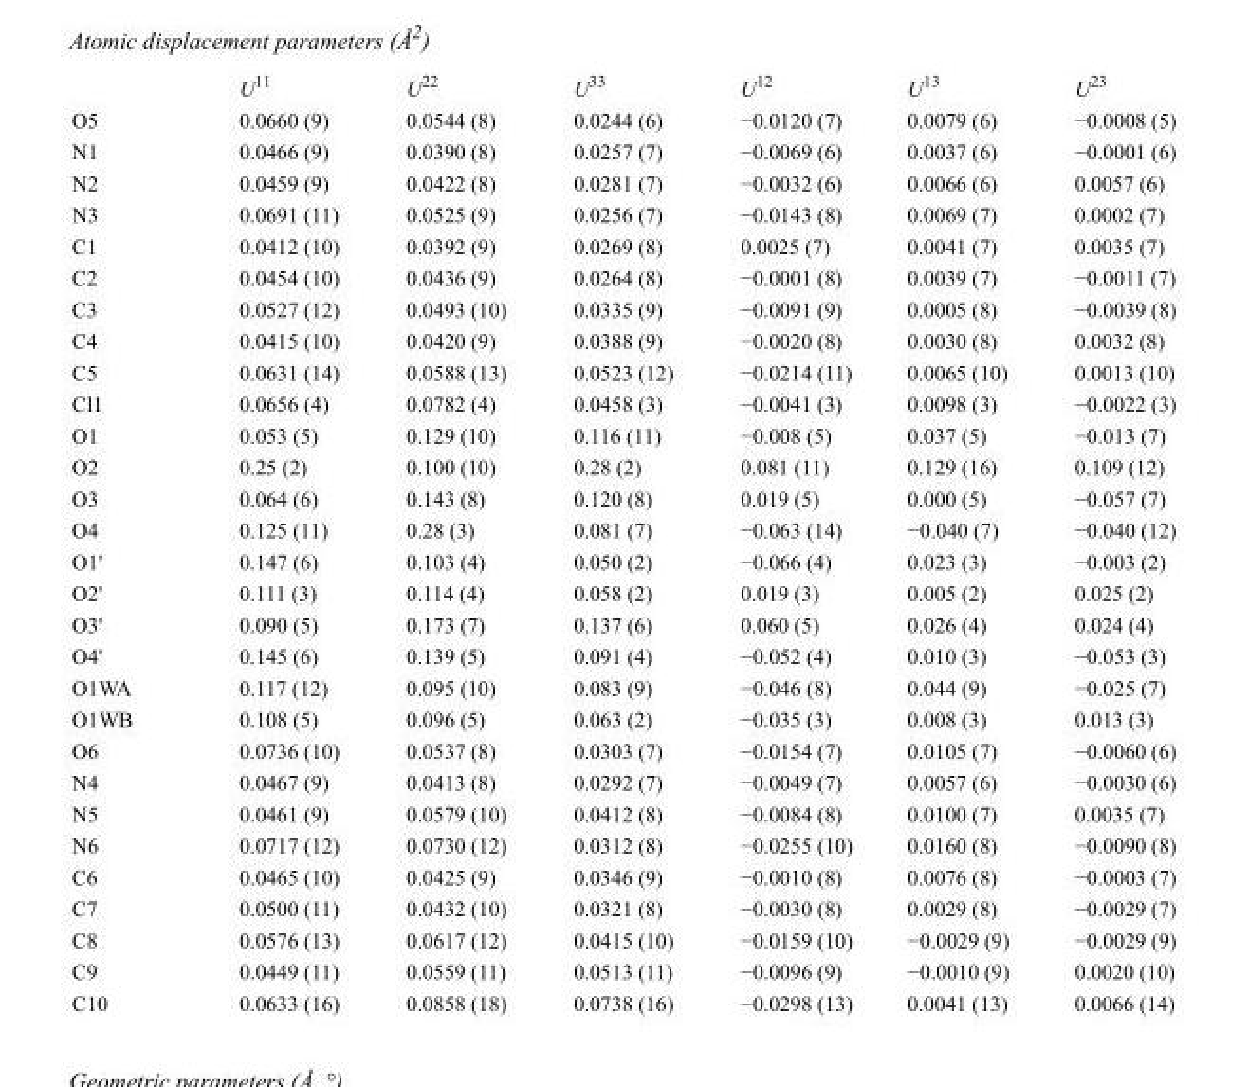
<table><thead><tr><td></td><td>U<sup>11</sup></td><td>U<sup>22</sup></td><td>U<sup>33</sup></td><td>U<sup>12</sup></td><td>U<sup>13</sup></td><td>U<sup>23</sup></td></tr></thead><tbody><tr><td>O5</td><td>0.0660 (9)</td><td>0.0544 (8)</td><td>0.0244 (6)</td><td>−0.0120 (7)</td><td>0.0079 (6)</td><td>−0.0008 (5)</td></tr><tr><td>N1</td><td>0.0466 (9)</td><td>0.0390 (8)</td><td>0.0257 (7)</td><td>−0.0069 (6)</td><td>0.0037 (6)</td><td>−0.0001 (6)</td></tr><tr><td>N2</td><td>0.0459 (9)</td><td>0.0422 (8)</td><td>0.0281 (7)</td><td>−0.0032 (6)</td><td>0.0066 (6)</td><td>0.0057 (6)</td></tr><tr><td>N3</td><td>0.0691 (11)</td><td>0.0525 (9)</td><td>0.0256 (7)</td><td>−0.0143 (8)</td><td>0.0069 (7)</td><td>0.0002 (7)</td></tr><tr><td>C1</td><td>0.0412 (10)</td><td>0.0392 (9)</td><td>0.0269 (8)</td><td>0.0025 (7)</td><td>0.0041 (7)</td><td>0.0035 (7)</td></tr><tr><td>C2</td><td>0.0454 (10)</td><td>0.0436 (9)</td><td>0.0264 (8)</td><td>−0.0001 (8)</td><td>0.0039 (7)</td><td>−0.0011 (7)</td></tr><tr><td>C3</td><td>0.0527 (12)</td><td>0.0493 (10)</td><td>0.0335 (9)</td><td>−0.0091 (9)</td><td>0.0005 (8)</td><td>−0.0039 (8)</td></tr><tr><td>C4</td><td>0.0415 (10)</td><td>0.0420 (9)</td><td>0.0388 (9)</td><td>−0.0020 (8)</td><td>0.0030 (8)</td><td>0.0032 (8)</td></tr><tr><td>C5</td><td>0.0631 (14)</td><td>0.0588 (13)</td><td>0.0523 (12)</td><td>−0.0214 (11)</td><td>0.0065 (10)</td><td>0.0013 (10)</td></tr><tr><td>Cl1</td><td>0.0656 (4)</td><td>0.0782 (4)</td><td>0.0458 (3)</td><td>−0.0041 (3)</td><td>0.0098 (3)</td><td>−0.0022 (3)</td></tr><tr><td>O1</td><td>0.053 (5)</td><td>0.129 (10)</td><td>0.116 (11)</td><td>−0.008 (5)</td><td>0.037 (5)</td><td>−0.013 (7)</td></tr><tr><td>O2</td><td>0.25 (2)</td><td>0.100 (10)</td><td>0.28 (2)</td><td>0.081 (11)</td><td>0.129 (16)</td><td>0.109 (12)</td></tr><tr><td>O3</td><td>0.064 (6)</td><td>0.143 (8)</td><td>0.120 (8)</td><td>0.019 (5)</td><td>0.000 (5)</td><td>−0.057 (7)</td></tr><tr><td>O4</td><td>0.125 (11)</td><td>0.28 (3)</td><td>0.081 (7)</td><td>−0.063 (14)</td><td>−0.040 (7)</td><td>−0.040 (12)</td></tr><tr><td>O1&#x27;</td><td>0.147 (6)</td><td>0.103 (4)</td><td>0.050 (2)</td><td>−0.066 (4)</td><td>0.023 (3)</td><td>−0.003 (2)</td></tr><tr><td>O2&#x27;</td><td>0.111 (3)</td><td>0.114 (4)</td><td>0.058 (2)</td><td>0.019 (3)</td><td>0.005 (2)</td><td>0.025 (2)</td></tr><tr><td>O3&#x27;</td><td>0.090 (5)</td><td>0.173 (7)</td><td>0.137 (6)</td><td>0.060 (5)</td><td>0.026 (4)</td><td>0.024 (4)</td></tr><tr><td>O4&#x27;</td><td>0.145 (6)</td><td>0.139 (5)</td><td>0.091 (4)</td><td>−0.052 (4)</td><td>0.010 (3)</td><td>−0.053 (3)</td></tr><tr><td>O1WA</td><td>0.117 (12)</td><td>0.095 (10)</td><td>0.083 (9)</td><td>−0.046 (8)</td><td>0.044 (9)</td><td>−0.025 (7)</td></tr><tr><td>O1WB</td><td>0.108 (5)</td><td>0.096 (5)</td><td>0.063 (2)</td><td>−0.035 (3)</td><td>0.008 (3)</td><td>0.013 (3)</td></tr><tr><td>O6</td><td>0.0736 (10)</td><td>0.0537 (8)</td><td>0.0303 (7)</td><td>−0.0154 (7)</td><td>0.0105 (7)</td><td>−0.0060 (6)</td></tr><tr><td>N4</td><td>0.0467 (9)</td><td>0.0413 (8)</td><td>0.0292 (7)</td><td>−0.0049 (7)</td><td>0.0057 (6)</td><td>−0.0030 (6)</td></tr><tr><td>N5</td><td>0.0461 (9)</td><td>0.0579 (10)</td><td>0.0412 (8)</td><td>−0.0084 (8)</td><td>0.0100 (7)</td><td>0.0035 (7)</td></tr><tr><td>N6</td><td>0.0717 (12)</td><td>0.0730 (12)</td><td>0.0312 (8)</td><td>−0.0255 (10)</td><td>0.0160 (8)</td><td>−0.0090 (8)</td></tr><tr><td>C6</td><td>0.0465 (10)</td><td>0.0425 (9)</td><td>0.0346 (9)</td><td>−0.0010 (8)</td><td>0.0076 (8)</td><td>−0.0003 (7)</td></tr><tr><td>C7</td><td>0.0500 (11)</td><td>0.0432 (10)</td><td>0.0321 (8)</td><td>−0.0030 (8)</td><td>0.0029 (8)</td><td>−0.0029 (7)</td></tr><tr><td>C8</td><td>0.0576 (13)</td><td>0.0617 (12)</td><td>0.0415 (10)</td><td>−0.0159 (10)</td><td>−0.0029 (9)</td><td>−0.0029 (9)</td></tr><tr><td>C9</td><td>0.0449 (11)</td><td>0.0559 (11)</td><td>0.0513 (11)</td><td>−0.0096 (9)</td><td>−0.0010 (9)</td><td>0.0020 (10)</td></tr><tr><td>C10</td><td>0.0633 (16)</td><td>0.0858 (18)</td><td>0.0738 (16)</td><td>−0.0298 (13)</td><td>0.0041 (13)</td><td>0.0066 (14)</td></tr></tbody></table>